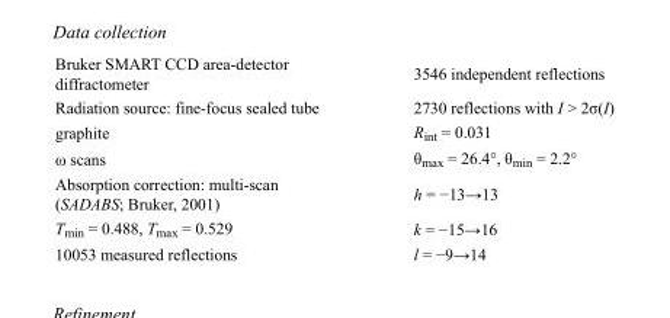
<table><tbody><tr><td>Bruker SMART CCD area-detector diffractometer</td><td>3546 independent reflections</td></tr><tr><td>Radiation source: fine-focus sealed tube</td><td>2730 reflections with I &gt; 2σ(I)</td></tr><tr><td>graphite</td><td>R<sub>int</sub> = 0.031</td></tr><tr><td>ω scans</td><td>θ<sub>max</sub> = 26.4°, θ<sub>min</sub> = 2.2°</td></tr><tr><td>Absorption correction: multi-scan (SADABS; Bruker, 2001)</td><td>h = −13→13</td></tr><tr><td>T<sub>min</sub> = 0.488, T<sub>max</sub> = 0.529</td><td>k = −15→16</td></tr><tr><td>10053 measured reflections</td><td>l = −9→14</td></tr></tbody></table>